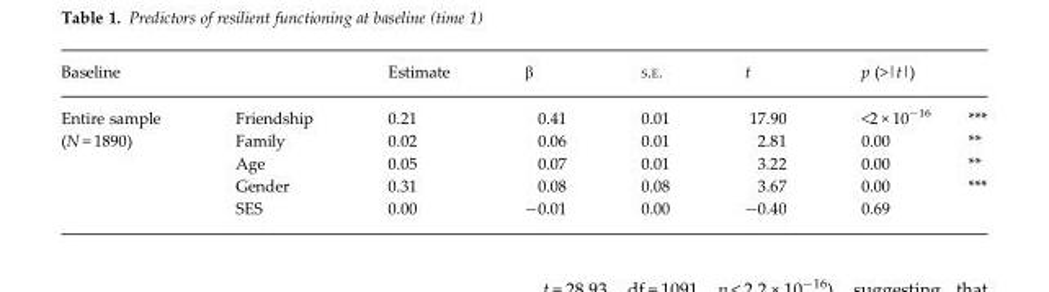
<table><thead><tr><td>Baseline</td><td></td><td>Estimate</td><td>β</td><td>S.E.</td><td>t</td><td>p (&gt;|t|)</td><td></td></tr></thead><tbody><tr><td>Entire sample</td><td>Friendship</td><td>0.21</td><td>0.41</td><td>0.01</td><td>17.90</td><td>&lt;2 × 10<sup>−16</sup></td><td>***</td></tr><tr><td rowspan="4">(N = 1890)</td><td>Family</td><td>0.02</td><td>0.06</td><td>0.01</td><td>2.81</td><td>0.00</td><td>**</td></tr><tr><td>Age</td><td>0.05</td><td>0.07</td><td>0.01</td><td>3.22</td><td>0.00</td><td>**</td></tr><tr><td>Gender</td><td>0.31</td><td>0.08</td><td>0.08</td><td>3.67</td><td>0.00</td><td>***</td></tr><tr><td>SES</td><td>0.00</td><td>−0.01</td><td>0.00</td><td>−0.40</td><td>0.69</td><td></td></tr></tbody></table>